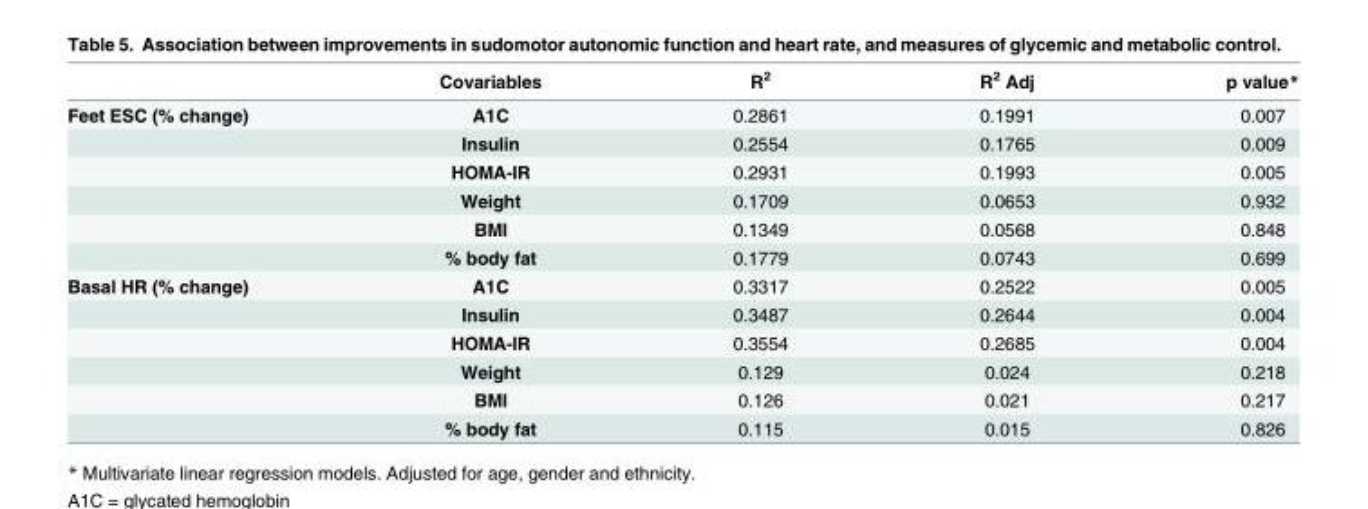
<table><thead><tr><td></td><td>Covariables</td><td>R<sup>2</sup></td><td>R<sup>2</sup> Adj</td><td>p value*</td></tr></thead><tbody><tr><td rowspan="6">Feet ESC (% change)</td><td>A1C</td><td>0.2861</td><td>0.1991</td><td>0.007</td></tr><tr><td>Insulin</td><td>0.2554</td><td>0.1765</td><td>0.009</td></tr><tr><td>HOMA-IR</td><td>0.2931</td><td>0.1993</td><td>0.005</td></tr><tr><td>Weight</td><td>0.1709</td><td>0.0653</td><td>0.932</td></tr><tr><td>BMI</td><td>0.1349</td><td>0.0568</td><td>0.848</td></tr><tr><td>% body fat</td><td>0.1779</td><td>0.0743</td><td>0.699</td></tr><tr><td rowspan="6">Basal HR (% change)</td><td>A1C</td><td>0.3317</td><td>0.2522</td><td>0.005</td></tr><tr><td>Insulin</td><td>0.3487</td><td>0.2644</td><td>0.004</td></tr><tr><td>HOMA-IR</td><td>0.3554</td><td>0.2685</td><td>0.004</td></tr><tr><td>Weight</td><td>0.129</td><td>0.024</td><td>0.218</td></tr><tr><td>BMI</td><td>0.126</td><td>0.021</td><td>0.217</td></tr><tr><td>% body fat</td><td>0.115</td><td>0.015</td><td>0.826</td></tr></tbody></table>